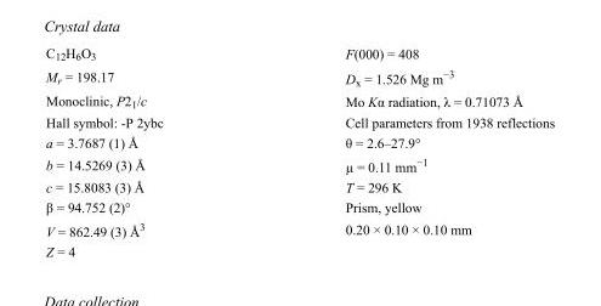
<table><tbody><tr><td>C<sub>12</sub>H<sub>6</sub>O<sub>3</sub></td><td>F(000) = 408</td></tr><tr><td>M<sub>r</sub> = 198.17</td><td>D<sub>x</sub> = 1.526 Mg m<sup>−3</sup></td></tr><tr><td>Monoclinic, P2<sub>1</sub>/c</td><td>Mo Kα radiation, λ = 0.71073 Å</td></tr><tr><td>Hall symbol: -P 2ybc</td><td>Cell parameters from 1938 reflections</td></tr><tr><td>a = 3.7687 (1) Å</td><td>θ = 2.6–27.9°</td></tr><tr><td>b = 14.5269 (3) Å</td><td>µ = 0.11 mm<sup>−1</sup></td></tr><tr><td>c = 15.8083 (3) Å</td><td>T = 296 K</td></tr><tr><td>β = 94.752 (2)°</td><td>Prism, yellow</td></tr><tr><td>V = 862.49 (3) Å<sup>3</sup></td><td>0.20 × 0.10 × 0.10 mm</td></tr><tr><td>Z = 4</td><td></td></tr></tbody></table>